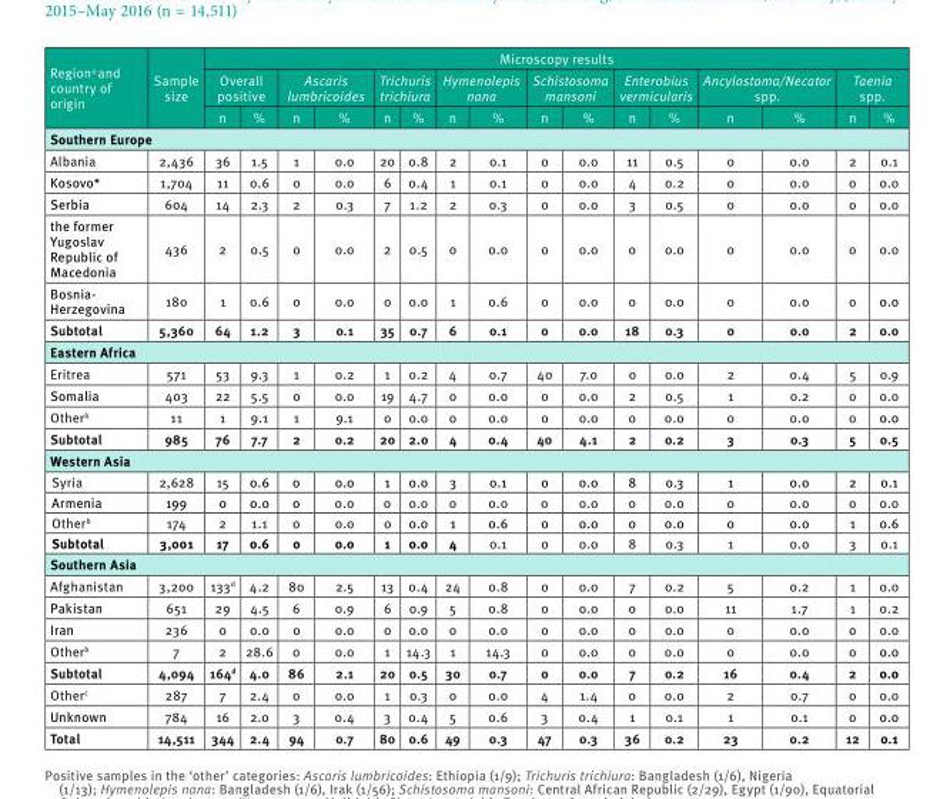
<table><thead><tr><td rowspan="3">Region<sup>a</sup> and country of origin</td><td rowspan="3">Sample size</td><td colspan="16">Microscopy results</td></tr><tr><td colspan="2">Overall positive</td><td colspan="2">Ascaris lumbricoides</td><td colspan="2">Trichuris trichiura</td><td colspan="2">Hymenolepis nana</td><td colspan="2">Schistosoma mansoni</td><td colspan="2">Enterobius vermicularis</td><td colspan="2">Ancylostoma/Necator spp.</td><td colspan="2">Taenia spp.</td></tr><tr><td>n</td><td>%</td><td>n</td><td>%</td><td>n</td><td>%</td><td>n</td><td>%</td><td>n</td><td>%</td><td>n</td><td>%</td><td>n</td><td>%</td><td>n</td><td>%</td></tr></thead><tbody><tr><td colspan="18">Southern Europe</td></tr><tr><td>Albania</td><td>2,436</td><td>36</td><td>1.5</td><td>1</td><td>0.0</td><td>20</td><td>0.8</td><td>2</td><td>0.1</td><td>0</td><td>0.0</td><td>11</td><td>0.5</td><td>0</td><td>0.0</td><td>2</td><td>0.1</td></tr><tr><td>Kosovo*</td><td>1,704</td><td>11</td><td>0.6</td><td>0</td><td>0.0</td><td>6</td><td>0.4</td><td>1</td><td>0.1</td><td>0</td><td>0.0</td><td>4</td><td>0.2</td><td>0</td><td>0.0</td><td>0</td><td>0.0</td></tr><tr><td>Serbia</td><td>604</td><td>14</td><td>2.3</td><td>2</td><td>0.3</td><td>7</td><td>1.2</td><td>2</td><td>0.3</td><td>0</td><td>0.0</td><td>3</td><td>0.5</td><td>0</td><td>0.0</td><td>0</td><td>0.0</td></tr><tr><td>the former Yugoslav Republic of Macedonia</td><td>436</td><td>2</td><td>0.5</td><td>0</td><td>0.0</td><td>2</td><td>0.5</td><td>0</td><td>0.0</td><td>0</td><td>0.0</td><td>0</td><td>0.0</td><td>0</td><td>0.0</td><td>0</td><td>0.0</td></tr><tr><td>Bosnia- Herzegovina</td><td>180</td><td>1</td><td>0.6</td><td>0</td><td>0.0</td><td>0</td><td>0.0</td><td>1</td><td>0.6</td><td>0</td><td>0.0</td><td>0</td><td>0.0</td><td>0</td><td>0.0</td><td>0</td><td>0.0</td></tr><tr><td>Subtotal</td><td>5,360</td><td>64</td><td>1.2</td><td>3</td><td>0.1</td><td>35</td><td>0.7</td><td>6</td><td>0.1</td><td>0</td><td>0.0</td><td>18</td><td>0.3</td><td>0</td><td>0.0</td><td>2</td><td>0.0</td></tr><tr><td colspan="18">Eastern Africa</td></tr><tr><td>Eritrea</td><td>571</td><td>53</td><td>9.3</td><td>1</td><td>0.2</td><td>1</td><td>0.2</td><td>4</td><td>0.7</td><td>40</td><td>7.0</td><td>0</td><td>0.0</td><td>2</td><td>0.4</td><td>5</td><td>0.9</td></tr><tr><td>Somalia</td><td>403</td><td>22</td><td>5.5</td><td>0</td><td>0.0</td><td>19</td><td>4.7</td><td>0</td><td>0.0</td><td>0</td><td>0.0</td><td>2</td><td>0.5</td><td>1</td><td>0.2</td><td>0</td><td>0.0</td></tr><tr><td>Other<sup>b</sup></td><td>11</td><td>1</td><td>9.1</td><td>1</td><td>9.1</td><td>0</td><td>0.0</td><td>0</td><td>0.0</td><td>0</td><td>0.0</td><td>0</td><td>0.0</td><td>0</td><td>0.0</td><td>0</td><td>0.0</td></tr><tr><td>Subtotal</td><td>985</td><td>76</td><td>7.7</td><td>2</td><td>0.2</td><td>20</td><td>2.0</td><td>4</td><td>0.4</td><td>40</td><td>4.1</td><td>2</td><td>0.2</td><td>3</td><td>0.3</td><td>5</td><td>0.5</td></tr><tr><td colspan="18">Western Asia</td></tr><tr><td>Syria</td><td>2,628</td><td>15</td><td>0.6</td><td>0</td><td>0.0</td><td>1</td><td>0.0</td><td>3</td><td>0.1</td><td>0</td><td>0.0</td><td>8</td><td>0.3</td><td>1</td><td>0.0</td><td>2</td><td>0.1</td></tr><tr><td>Armenia</td><td>199</td><td>0</td><td>0.0</td><td>0</td><td>0.0</td><td>0</td><td>0.0</td><td>0</td><td>0.0</td><td>0</td><td>0.0</td><td>0</td><td>0.0</td><td>0</td><td>0.0</td><td>0</td><td>0.0</td></tr><tr><td>Other<sup>b</sup></td><td>174</td><td>2</td><td>1.1</td><td>0</td><td>0.0</td><td>0</td><td>0.0</td><td>1</td><td>0.6</td><td>0</td><td>0.0</td><td>0</td><td>0.0</td><td>0</td><td>0.0</td><td>1</td><td>0.6</td></tr><tr><td>Subtotal</td><td>3,001</td><td>17</td><td>0.6</td><td>0</td><td>0.0</td><td>1</td><td>0.0</td><td>4</td><td>0.1</td><td>0</td><td>0.0</td><td>8</td><td>0.3</td><td>1</td><td>0.0</td><td>3</td><td>0.1</td></tr><tr><td colspan="18">Southern Asia</td></tr><tr><td>Afghanistan</td><td>3,200</td><td>133<sup>d</sup></td><td>4.2</td><td>80</td><td>2.5</td><td>13</td><td>0.4</td><td>24</td><td>0.8</td><td>0</td><td>0.0</td><td>7</td><td>0.2</td><td>5</td><td>0.2</td><td>1</td><td>0.0</td></tr><tr><td>Pakistan</td><td>651</td><td>29</td><td>4.5</td><td>6</td><td>0.9</td><td>6</td><td>0.9</td><td>5</td><td>0.8</td><td>0</td><td>0.0</td><td>0</td><td>0.0</td><td>11</td><td>1.7</td><td>1</td><td>0.2</td></tr><tr><td>Iran</td><td>236</td><td>0</td><td>0.0</td><td>0</td><td>0.0</td><td>0</td><td>0.0</td><td>0</td><td>0.0</td><td>0</td><td>0.0</td><td>0</td><td>0.0</td><td>0</td><td>0.0</td><td>0</td><td>0.0</td></tr><tr><td>Other<sup>b</sup></td><td>7</td><td>2</td><td>28.6</td><td>0</td><td>0.0</td><td>1</td><td>14.3</td><td>1</td><td>14.3</td><td>0</td><td>0.0</td><td>0</td><td>0.0</td><td>0</td><td>0.0</td><td>0</td><td>0.0</td></tr><tr><td>Subtotal</td><td>4,094</td><td>164<sup>d</sup></td><td>4.0</td><td>86</td><td>2.1</td><td>20</td><td>0.5</td><td>30</td><td>0.7</td><td>0</td><td>0.0</td><td>7</td><td>0.2</td><td>16</td><td>0.4</td><td>2</td><td>0.0</td></tr><tr><td>Other<sup>c</sup></td><td>287</td><td>7</td><td>2.4</td><td>0</td><td>0.0</td><td>1</td><td>0.3</td><td>0</td><td>0.0</td><td>4</td><td>1.4</td><td>0</td><td>0.0</td><td>2</td><td>0.7</td><td>0</td><td>0.0</td></tr><tr><td>Unknown</td><td>784</td><td>16</td><td>2.0</td><td>3</td><td>0.4</td><td>3</td><td>0.4</td><td>5</td><td>0.6</td><td>3</td><td>0.4</td><td>1</td><td>0.1</td><td>1</td><td>0.1</td><td>0</td><td>0.0</td></tr><tr><td>Total</td><td>14,511</td><td>344</td><td>2.4</td><td>94</td><td>0.7</td><td>80</td><td>0.6</td><td>49</td><td>0.3</td><td>47</td><td>0.3</td><td>36</td><td>0.2</td><td>23</td><td>0.2</td><td>12</td><td>0.1</td></tr></tbody></table>